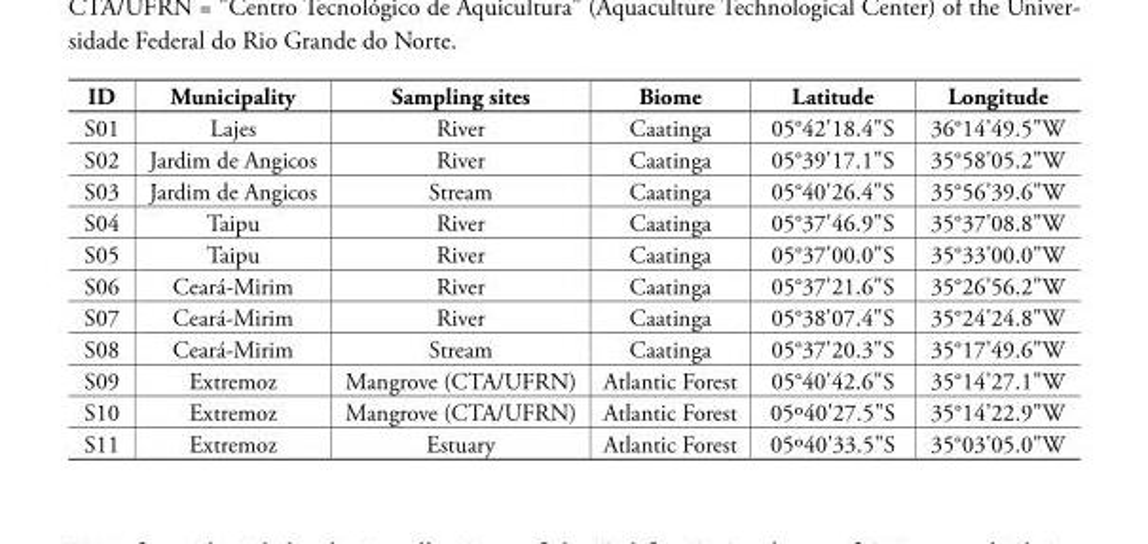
<table><thead><tr><td>ID</td><td>Municipality</td><td>Sampling sites</td><td>Biome</td><td>Latitude Longitude</td></tr></thead><tbody><tr><td>S01</td><td>Lajes</td><td>River</td><td>Caatinga</td><td>05°42&#x27;18.4&quot;S 36°14&#x27;49.5&quot;W</td></tr><tr><td>S02</td><td>Jardim de Angicos</td><td>River</td><td>Caatinga</td><td>05°39&#x27;17.1&quot;S 35°58&#x27;05.2&quot;W</td></tr><tr><td>S03</td><td>Jardim de Angicos</td><td>Stream</td><td>Caatinga</td><td>05°40&#x27;26.4&quot;S 35°56&#x27;39.6&quot;W</td></tr><tr><td>S04</td><td>Taipu</td><td>River</td><td>Caatinga</td><td>05°37&#x27;46.9&quot;S 35°37&#x27;08.8&quot;W</td></tr><tr><td>S05</td><td>Taipu</td><td>River</td><td>Caatinga</td><td>05°37&#x27;00.0&quot;S 35°33&#x27;00.0&quot;W</td></tr><tr><td>S06</td><td>Ceará-Mirim</td><td>River</td><td>Caatinga</td><td>05°37&#x27;21.6&quot;S 35°26&#x27;56.2&quot;W</td></tr><tr><td>S07</td><td>Ceará-Mirim</td><td>River</td><td>Caatinga</td><td>05°38&#x27;07.4&quot;S 35°24&#x27;24.8&quot;W</td></tr><tr><td>S08</td><td>Ceará-Mirim</td><td>Stream</td><td>Caatinga</td><td>05°37&#x27;20.3&quot;S 35°17&#x27;49.6&quot;W</td></tr><tr><td>S09</td><td>Extremoz</td><td>Mangrove (CTA/UFRN)</td><td>Atlantic Forest</td><td>05°40&#x27;42.6&quot;S 35°14&#x27;27.1&quot;W</td></tr><tr><td>S10</td><td>Extremoz</td><td>Mangrove (CTA/UFRN)</td><td>Atlantic Forest</td><td>05º40&#x27;27.5&quot;S 35°14&#x27;22.9&quot;W</td></tr><tr><td>S11</td><td>Extremoz</td><td>Estuary</td><td>Atlantic Forest</td><td>05º40&#x27;33.5&quot;S 35°03&#x27;05.0&quot;W</td></tr></tbody></table>